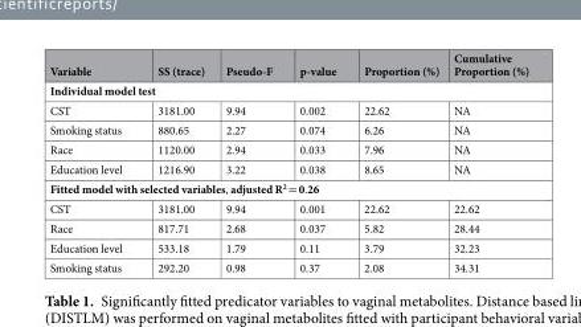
<table><thead><tr><td>Variable</td><td>SS (trace)</td><td>Pseudo-F</td><td>p-value</td><td>Proportion (%)</td><td>Cumulative Proportion (%)</td></tr></thead><tbody><tr><td colspan="6">Individual model test</td></tr><tr><td>CST</td><td>3181.00</td><td>9.94</td><td>0.002</td><td>22.62</td><td>NA</td></tr><tr><td>Smoking status</td><td>880.65</td><td>2.27</td><td>0.074</td><td>6.26</td><td>NA</td></tr><tr><td>Race</td><td>1120.00</td><td>2.94</td><td>0.033</td><td>7.96</td><td>NA</td></tr><tr><td>Education level</td><td>1216.90</td><td>3.22</td><td>0.038</td><td>8.65</td><td>NA</td></tr><tr><td colspan="6">Fitted model with selected variables, adjusted R<sup>2</sup> = 0.26</td></tr><tr><td>CST</td><td>3181.00</td><td>9.94</td><td>0.001</td><td>22.62</td><td>22.62</td></tr><tr><td>Race</td><td>817.71</td><td>2.68</td><td>0.037</td><td>5.82</td><td>28.44</td></tr><tr><td>Education level</td><td>533.18</td><td>1.79</td><td>0.11</td><td>3.79</td><td>32.23</td></tr><tr><td>Smoking status</td><td>292.20</td><td>0.98</td><td>0.37</td><td>2.08</td><td>34.31</td></tr></tbody></table>